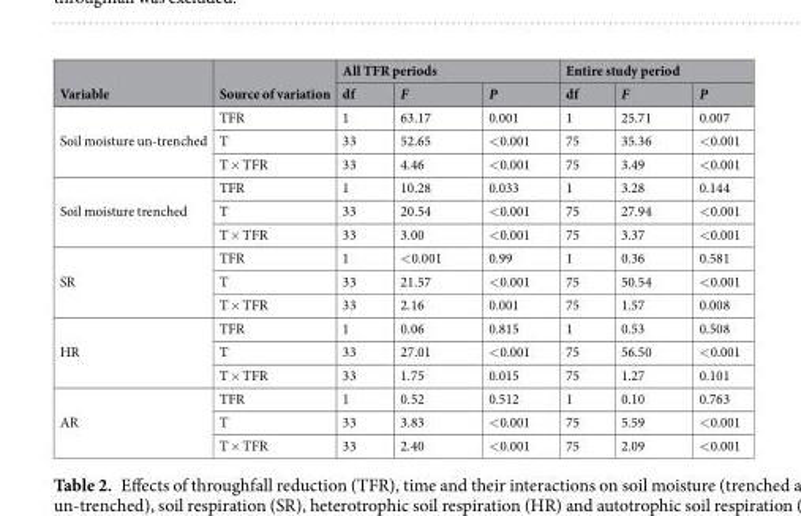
<table><thead><tr><td rowspan="2">Variable</td><td rowspan="2">Source of variation</td><td colspan="3">All TFR periods</td><td colspan="3">Entire study period</td></tr><tr><td>df</td><td>F</td><td>P</td><td>df</td><td>F</td><td>P</td></tr></thead><tbody><tr><td rowspan="3">Soil moisture un-trenched</td><td>TFR</td><td>1</td><td>63.17</td><td>0.001</td><td>1</td><td>25.71</td><td>0.007</td></tr><tr><td>T</td><td>33</td><td>52.65</td><td>&lt;0.001</td><td>75</td><td>35.36</td><td>&lt;0.001</td></tr><tr><td>T × TFR</td><td>33</td><td>4.46</td><td>&lt;0.001</td><td>75</td><td>3.49</td><td>&lt;0.001</td></tr><tr><td rowspan="3">Soil moisture trenched</td><td>TFR</td><td>1</td><td>10.28</td><td>0.033</td><td>1</td><td>3.28</td><td>0.144</td></tr><tr><td>T</td><td>33</td><td>20.54</td><td>&lt;0.001</td><td>75</td><td>27.94</td><td>&lt;0.001</td></tr><tr><td>T × TFR</td><td>33</td><td>3.00</td><td>&lt;0.001</td><td>75</td><td>3.37</td><td>&lt;0.001</td></tr><tr><td rowspan="3">SR</td><td>TFR</td><td>1</td><td>&lt;0.001</td><td>0.99</td><td>1</td><td>0.36</td><td>0.581</td></tr><tr><td>T</td><td>33</td><td>21.57</td><td>&lt;0.001</td><td>75</td><td>50.54</td><td>&lt;0.001</td></tr><tr><td>T × TFR</td><td>33</td><td>2.16</td><td>0.001</td><td>75</td><td>1.57</td><td>0.008</td></tr><tr><td rowspan="3">HR</td><td>TFR</td><td>1</td><td>0.06</td><td>0.815</td><td>1</td><td>0.53</td><td>0.508</td></tr><tr><td>T</td><td>33</td><td>27.01</td><td>&lt;0.001</td><td>75</td><td>56.50</td><td>&lt;0.001</td></tr><tr><td>T × TFR</td><td>33</td><td>1.75</td><td>0.015</td><td>75</td><td>1.27</td><td>0.101</td></tr><tr><td rowspan="3">AR</td><td>TFR</td><td>1</td><td>0.52</td><td>0.512</td><td>1</td><td>0.10</td><td>0.763</td></tr><tr><td>T</td><td>33</td><td>3.83</td><td>&lt;0.001</td><td>75</td><td>5.59</td><td>&lt;0.001</td></tr><tr><td>T × TFR</td><td>33</td><td>2.40</td><td>&lt;0.001</td><td>75</td><td>2.09</td><td>&lt;0.001</td></tr></tbody></table>